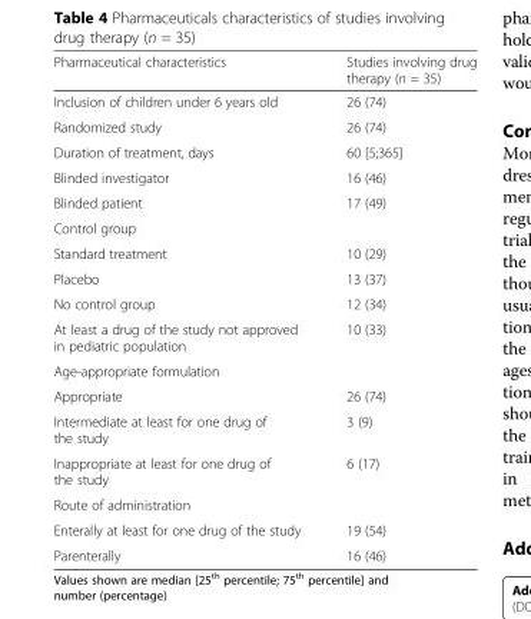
<table><thead><tr><td>Pharmaceutical characteristics</td><td>Studies involving drug therapy (n = 35)</td></tr></thead><tbody><tr><td>Inclusion of children under 6 years old</td><td>26 (74)</td></tr><tr><td>Randomized study</td><td>26 (74)</td></tr><tr><td>Duration of treatment, days</td><td>60 [5;365]</td></tr><tr><td>Blinded investigator</td><td>16 (46)</td></tr><tr><td>Blinded patient</td><td>17 (49)</td></tr><tr><td colspan="2">Control group</td></tr><tr><td>Standard treatment</td><td>10 (29)</td></tr><tr><td>Placebo</td><td>13 (37)</td></tr><tr><td>No control group</td><td>12 (34)</td></tr><tr><td>At least a drug of the study not approved in pediatric population</td><td>10 (33)</td></tr><tr><td colspan="2">Age-appropriate formulation</td></tr><tr><td>Appropriate</td><td>26 (74)</td></tr><tr><td>Intermediate at least for one drug of the study</td><td>3 (9)</td></tr><tr><td>Inappropriate at least for one drug of the study</td><td>6 (17)</td></tr><tr><td colspan="2">Route of administration</td></tr><tr><td>Enterally at least for one drug of the study</td><td>19 (54)</td></tr><tr><td>Parenterally</td><td>16 (46)</td></tr></tbody></table>